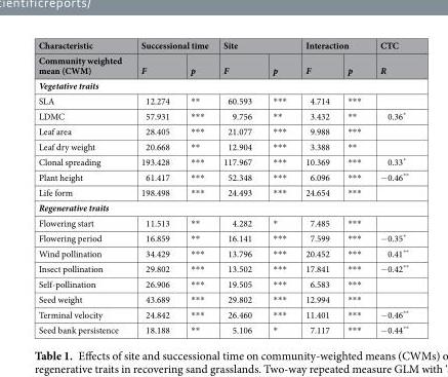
<table><thead><tr><td rowspan="2">Characteristic Community weighted mean (CWM)</td><td colspan="2">Successional time</td><td colspan="2">Site</td><td colspan="2">Interaction</td><td rowspan="2">CTC R</td></tr><tr><td>F</td><td>p</td><td>F</td><td>p</td><td>F</td><td>p</td></tr></thead><tbody><tr><td colspan="8">Vegetative traits</td></tr><tr><td>SLA</td><td>12.274</td><td>**</td><td>60.593</td><td>***</td><td>4.714</td><td>***</td><td></td></tr><tr><td>LDMC</td><td>57.931</td><td>***</td><td>9.756</td><td>**</td><td>3.432</td><td>**</td><td>0.36*</td></tr><tr><td>Leaf area</td><td>28.405</td><td>***</td><td>21.077</td><td>***</td><td>9.988</td><td>***</td><td></td></tr><tr><td>Leaf dry weight</td><td>20.668</td><td>**</td><td>12.904</td><td>***</td><td>3.388</td><td>**</td><td></td></tr><tr><td>Clonal spreading</td><td>193.428</td><td>***</td><td>117.967</td><td>***</td><td>10.369</td><td>***</td><td>0.33*</td></tr><tr><td>Plant height</td><td>61.417</td><td>***</td><td>52.348</td><td>***</td><td>6.096</td><td>***</td><td>−0.46**</td></tr><tr><td>Life form</td><td>198.498</td><td>***</td><td>24.493</td><td>***</td><td>24.654</td><td>***</td><td></td></tr><tr><td colspan="8">Regenerative traits</td></tr><tr><td>Flowering start</td><td>11.513</td><td>**</td><td>4.282</td><td>*</td><td>7.485</td><td>***</td><td></td></tr><tr><td>Flowering period</td><td>16.859</td><td>**</td><td>16.141</td><td>***</td><td>7.599</td><td>***</td><td>−0.35*</td></tr><tr><td>Wind pollination</td><td>34.429</td><td>***</td><td>13.796</td><td>***</td><td>20.452</td><td>***</td><td>0.41**</td></tr><tr><td>Insect pollination</td><td>29.802</td><td>***</td><td>13.502</td><td>***</td><td>17.841</td><td>***</td><td>−0.42**</td></tr><tr><td>Self-pollination</td><td>26.906</td><td>***</td><td>19.505</td><td>***</td><td>6.583</td><td>***</td><td></td></tr><tr><td>Seed weight</td><td>43.689</td><td>***</td><td>29.802</td><td>***</td><td>12.994</td><td>***</td><td></td></tr><tr><td>Terminal velocity</td><td>24.842</td><td>***</td><td>26.460</td><td>***</td><td>11.401</td><td>***</td><td>−0.46**</td></tr><tr><td>Seed bank persistence</td><td>18.188</td><td>**</td><td>5.106</td><td>*</td><td>7.117</td><td>***</td><td>−0.44**</td></tr></tbody></table>